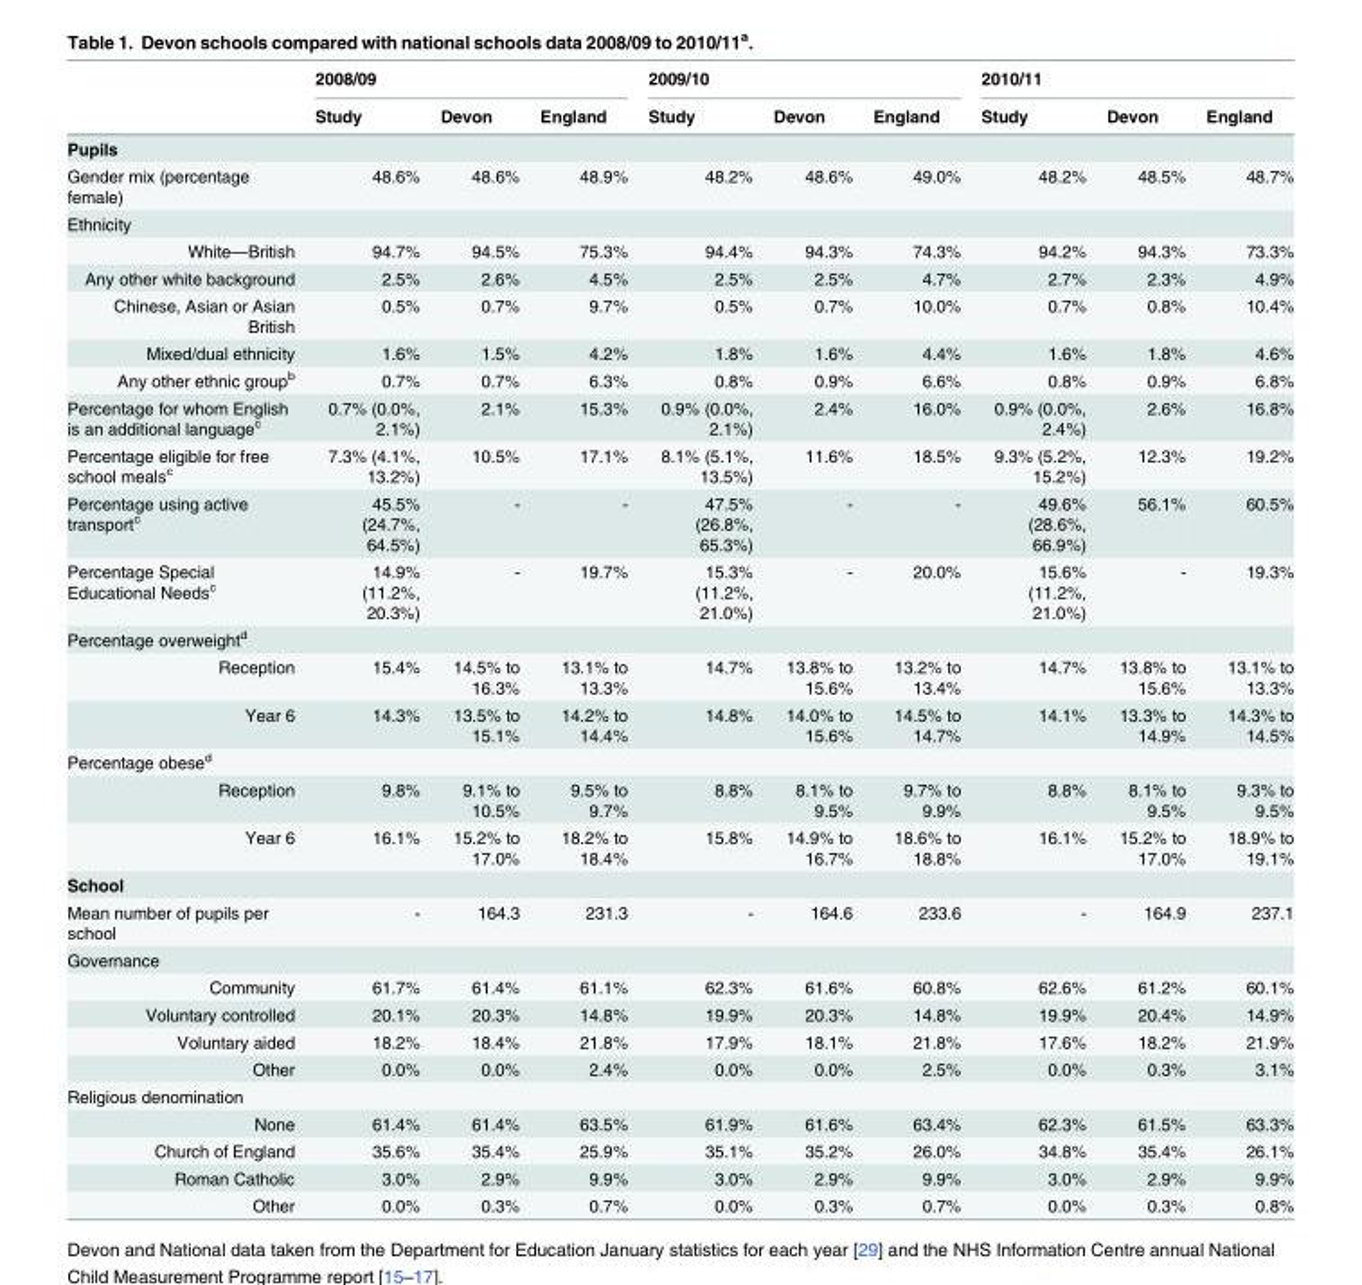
<table><thead><tr><td rowspan="2"></td><td colspan="3">2008/09</td><td colspan="3">2009/10</td><td colspan="3">2010/11</td></tr><tr><td>Study</td><td>Devon</td><td>England</td><td>Study</td><td>Devon</td><td>England</td><td>Study</td><td>Devon</td><td>England</td></tr></thead><tbody><tr><td colspan="10">Pupils</td></tr><tr><td>Gender mix (percentage female)</td><td>48.6%</td><td>48.6%</td><td>48.9%</td><td>48.2%</td><td>48.6%</td><td>49.0%</td><td>48.2%</td><td>48.5%</td><td>48.7%</td></tr><tr><td colspan="10">Ethnicity</td></tr><tr><td>White—British</td><td>94.7%</td><td>94.5%</td><td>75.3%</td><td>94.4%</td><td>94.3%</td><td>74.3%</td><td>94.2%</td><td>94.3%</td><td>73.3%</td></tr><tr><td>Any other white background</td><td>2.5%</td><td>2.6%</td><td>4.5%</td><td>2.5%</td><td>2.5%</td><td>4.7%</td><td>2.7%</td><td>2.3%</td><td>4.9%</td></tr><tr><td>Chinese, Asian or Asian British</td><td>0.5%</td><td>0.7%</td><td>9.7%</td><td>0.5%</td><td>0.7%</td><td>10.0%</td><td>0.7%</td><td>0.8%</td><td>10.4%</td></tr><tr><td>Mixed/dual ethnicity</td><td>1.6%</td><td>1.5%</td><td>4.2%</td><td>1.8%</td><td>1.6%</td><td>4.4%</td><td>1.6%</td><td>1.8%</td><td>4.6%</td></tr><tr><td>Any other ethnic group<sup>b</sup></td><td>0.7%</td><td>0.7%</td><td>6.3%</td><td>0.8%</td><td>0.9%</td><td>6.6%</td><td>0.8%</td><td>0.9%</td><td>6.8%</td></tr><tr><td>Percentage for whom English is an additional language<sup>c</sup></td><td>0.7% (0.0%, 2.1%)</td><td>2.1%</td><td>15.3%</td><td>0.9% (0.0%, 2.1%)</td><td>2.4%</td><td>16.0%</td><td>0.9% (0.0%, 2.4%)</td><td>2.6%</td><td>16.8%</td></tr><tr><td>Percentage eligible for free school meals<sup>c</sup></td><td>7.3% (4.1%, 13.2%)</td><td>10.5%</td><td>17.1%</td><td>8.1% (5.1%, 13.5%)</td><td>11.6%</td><td>18.5%</td><td>9.3% (5.2%, 15.2%)</td><td>12.3%</td><td>19.2%</td></tr><tr><td>Percentage using active transport<sup>c</sup></td><td>45.5% (24.7%, 64.5%)</td><td>-</td><td>-</td><td>47.5% (26.8%, 65.3%)</td><td>-</td><td>-</td><td>49.6% (28.6%, 66.9%)</td><td>56.1%</td><td>60.5%</td></tr><tr><td>Percentage Special Educational Needs<sup>c</sup></td><td>14.9% (11.2%, 20.3%)</td><td>-</td><td>19.7%</td><td>15.3% (11.2%, 21.0%)</td><td>-</td><td>20.0%</td><td>15.6% (11.2%, 21.0%)</td><td>-</td><td>19.3%</td></tr><tr><td colspan="10">Percentage overweight<sup>d</sup></td></tr><tr><td>Reception</td><td>15.4%</td><td>14.5% to 16.3%</td><td>13.1% to 13.3%</td><td>14.7%</td><td>13.8% to 15.6%</td><td>13.2% to 13.4%</td><td>14.7%</td><td>13.8% to 15.6%</td><td>13.1% to 13.3%</td></tr><tr><td>Year 6</td><td>14.3%</td><td>13.5% to 15.1%</td><td>14.2% to 14.4%</td><td>14.8%</td><td>14.0% to 15.6%</td><td>14.5% to 14.7%</td><td>14.1%</td><td>13.3% to 14.9%</td><td>14.3% to 14.5%</td></tr><tr><td colspan="10">Percentage obese<sup>d</sup></td></tr><tr><td>Reception</td><td>9.8%</td><td>9.1% to 10.5%</td><td>9.5% to 9.7%</td><td>8.8%</td><td>8.1% to 9.5%</td><td>9.7% to 9.9%</td><td>8.8%</td><td>8.1% to 9.5%</td><td>9.3% to 9.5%</td></tr><tr><td>Year 6</td><td>16.1%</td><td>15.2% to 17.0%</td><td>18.2% to 18.4%</td><td>15.8%</td><td>14.9% to 16.7%</td><td>18.6% to 18.8%</td><td>16.1%</td><td>15.2% to 17.0%</td><td>18.9% to 19.1%</td></tr><tr><td colspan="10">School</td></tr><tr><td>Mean number of pupils per school</td><td>-</td><td>164.3</td><td>231.3</td><td>-</td><td>164.6</td><td>233.6</td><td>-</td><td>164.9</td><td>237.1</td></tr><tr><td colspan="10">Governance</td></tr><tr><td>Community</td><td>61.7%</td><td>61.4%</td><td>61.1%</td><td>62.3%</td><td>61.6%</td><td>60.8%</td><td>62.6%</td><td>61.2%</td><td>60.1%</td></tr><tr><td>Voluntary controlled</td><td>20.1%</td><td>20.3%</td><td>14.8%</td><td>19.9%</td><td>20.3%</td><td>14.8%</td><td>19.9%</td><td>20.4%</td><td>14.9%</td></tr><tr><td>Voluntary aided</td><td>18.2%</td><td>18.4%</td><td>21.8%</td><td>17.9%</td><td>18.1%</td><td>21.8%</td><td>17.6%</td><td>18.2%</td><td>21.9%</td></tr><tr><td>Other</td><td>0.0%</td><td>0.0%</td><td>2.4%</td><td>0.0%</td><td>0.0%</td><td>2.5%</td><td>0.0%</td><td>0.3%</td><td>3.1%</td></tr><tr><td colspan="10">Religious denomination</td></tr><tr><td>None</td><td>61.4%</td><td>61.4%</td><td>63.5%</td><td>61.9%</td><td>61.6%</td><td>63.4%</td><td>62.3%</td><td>61.5%</td><td>63.3%</td></tr><tr><td>Church of England</td><td>35.6%</td><td>35.4%</td><td>25.9%</td><td>35.1%</td><td>35.2%</td><td>26.0%</td><td>34.8%</td><td>35.4%</td><td>26.1%</td></tr><tr><td>Roman Catholic</td><td>3.0%</td><td>2.9%</td><td>9.9%</td><td>3.0%</td><td>2.9%</td><td>9.9%</td><td>3.0%</td><td>2.9%</td><td>9.9%</td></tr><tr><td>Other</td><td>0.0%</td><td>0.3%</td><td>0.7%</td><td>0.0%</td><td>0.3%</td><td>0.7%</td><td>0.0%</td><td>0.3%</td><td>0.8%</td></tr></tbody></table>